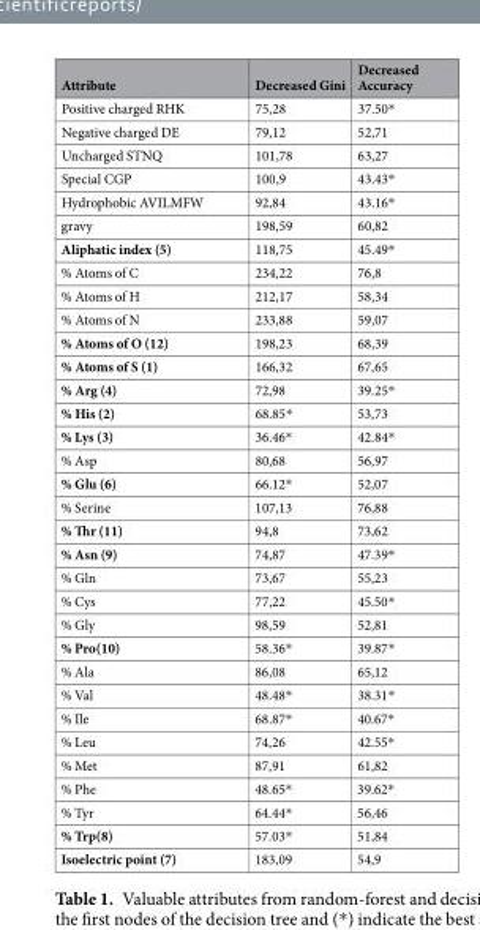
<table><thead><tr><td>Attribute</td><td>Decreased Gini</td><td>Decreased Accuracy</td></tr></thead><tbody><tr><td>Positive charged RHK</td><td>75,28</td><td>37.50*</td></tr><tr><td>Negative charged DE</td><td>79,12</td><td>52,71</td></tr><tr><td>Uncharged STNQ</td><td>101,78</td><td>63,27</td></tr><tr><td>Special CGP</td><td>100,9</td><td>43.43*</td></tr><tr><td>Hydrophobic AVILMFW</td><td>92,84</td><td>43.16*</td></tr><tr><td>gravy</td><td>198,59</td><td>60,82</td></tr><tr><td>Aliphatic index (5)</td><td>118,75</td><td>45.49*</td></tr><tr><td>% Atoms of C</td><td>234,22</td><td>76,8</td></tr><tr><td>% Atoms of H</td><td>212,17</td><td>58,34</td></tr><tr><td>% Atoms of N</td><td>233,88</td><td>59,07</td></tr><tr><td>% Atoms of O (12)</td><td>198,23</td><td>68,39</td></tr><tr><td>% Atoms of S (1)</td><td>166,32</td><td>67,65</td></tr><tr><td>% Arg (4)</td><td>72,98</td><td>39.25*</td></tr><tr><td>% His (2)</td><td>68.85*</td><td>53,73</td></tr><tr><td>% Lys (3)</td><td>36.46*</td><td>42.84*</td></tr><tr><td>% Asp</td><td>80,68</td><td>56,97</td></tr><tr><td>% Glu (6)</td><td>66.12*</td><td>52,07</td></tr><tr><td>% Serine</td><td>107,13</td><td>76,88</td></tr><tr><td>% Thr (11)</td><td>94,8</td><td>73,62</td></tr><tr><td>% Asn (9)</td><td>74,87</td><td>47.39*</td></tr><tr><td>% Gln</td><td>73,67</td><td>55,23</td></tr><tr><td>% Cys</td><td>77,22</td><td>45.50*</td></tr><tr><td>% Gly</td><td>98,59</td><td>52,81</td></tr><tr><td>% Pro(10)</td><td>58.36*</td><td>39.87*</td></tr><tr><td>% Ala</td><td>86,08</td><td>65,12</td></tr><tr><td>% Val</td><td>48.48*</td><td>38.31*</td></tr><tr><td>% Ile</td><td>68.87*</td><td>40.67*</td></tr><tr><td>% Leu</td><td>74,26</td><td>42.55*</td></tr><tr><td>% Met</td><td>87,91</td><td>61,82</td></tr><tr><td>% Phe</td><td>48.65*</td><td>39.62*</td></tr><tr><td>% Tyr</td><td>64.44*</td><td>56,46</td></tr><tr><td>% Trp(8)</td><td>57.03*</td><td>51,84</td></tr><tr><td>Isoelectric point (7)</td><td>183,09</td><td>54,9</td></tr></tbody></table>